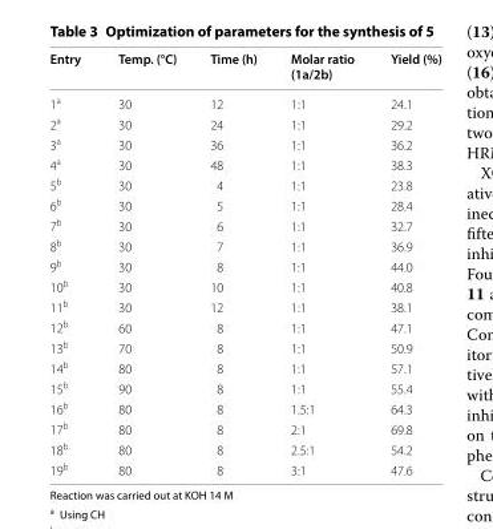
<table><thead><tr><td>Entry</td><td>Temp. (°C)</td><td>Time (h)</td><td>Molar ratio (1a/2b)</td><td>Yield (%)</td></tr></thead><tbody><tr><td>1<sup>a</sup></td><td>30</td><td>12</td><td>1:1</td><td>24.1</td></tr><tr><td>2<sup>a</sup></td><td>30</td><td>24</td><td>1:1</td><td>29.2</td></tr><tr><td>3<sup>a</sup></td><td>30</td><td>36</td><td>1:1</td><td>36.2</td></tr><tr><td>4<sup>a</sup></td><td>30</td><td>48</td><td>1:1</td><td>38.3</td></tr><tr><td>5<sup>b</sup></td><td>30</td><td>4</td><td>1:1</td><td>23.8</td></tr><tr><td>6<sup>b</sup></td><td>30</td><td>5</td><td>1:1</td><td>28.4</td></tr><tr><td>7<sup>b</sup></td><td>30</td><td>6</td><td>1:1</td><td>32.7</td></tr><tr><td>8<sup>b</sup></td><td>30</td><td>7</td><td>1:1</td><td>36.9</td></tr><tr><td>9<sup>b</sup></td><td>30</td><td>8</td><td>1:1</td><td>44.0</td></tr><tr><td>10<sup>b</sup></td><td>30</td><td>10</td><td>1:1</td><td>40.8</td></tr><tr><td>11<sup>b</sup></td><td>30</td><td>12</td><td>1:1</td><td>38.1</td></tr><tr><td>12<sup>b</sup></td><td>60</td><td>8</td><td>1:1</td><td>47.1</td></tr><tr><td>13<sup>b</sup></td><td>70</td><td>8</td><td>1:1</td><td>50.9</td></tr><tr><td>14<sup>b</sup></td><td>80</td><td>8</td><td>1:1</td><td>57.1</td></tr><tr><td>15<sup>b</sup></td><td>90</td><td>8</td><td>1:1</td><td>55.4</td></tr><tr><td>16<sup>b</sup></td><td>80</td><td>8</td><td>1.5:1</td><td>64.3</td></tr><tr><td>17<sup>b</sup></td><td>80</td><td>8</td><td>2:1</td><td>69.8</td></tr><tr><td>18<sup>b</sup></td><td>80</td><td>8</td><td>2.5:1</td><td>54.2</td></tr><tr><td>19<sup>b</sup></td><td>80</td><td>8</td><td>3:1</td><td>47.6</td></tr></tbody></table>